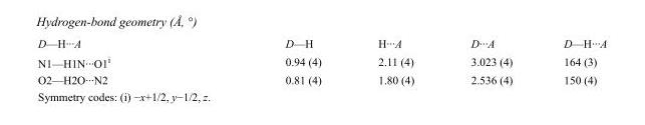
<table><tbody><tr><td>D—H···A</td><td>D—H</td><td>H···A</td><td>D···A</td><td>D—H···A</td></tr><tr><td>N1—H1N···O1<sup>i</sup></td><td>0.94 (4)</td><td>2.11 (4)</td><td>3.023 (4)</td><td>164 (3)</td></tr><tr><td>O2—H2O···N2</td><td>0.81 (4)</td><td>1.80 (4)</td><td>2.536 (4)</td><td>150 (4)</td></tr></tbody></table>